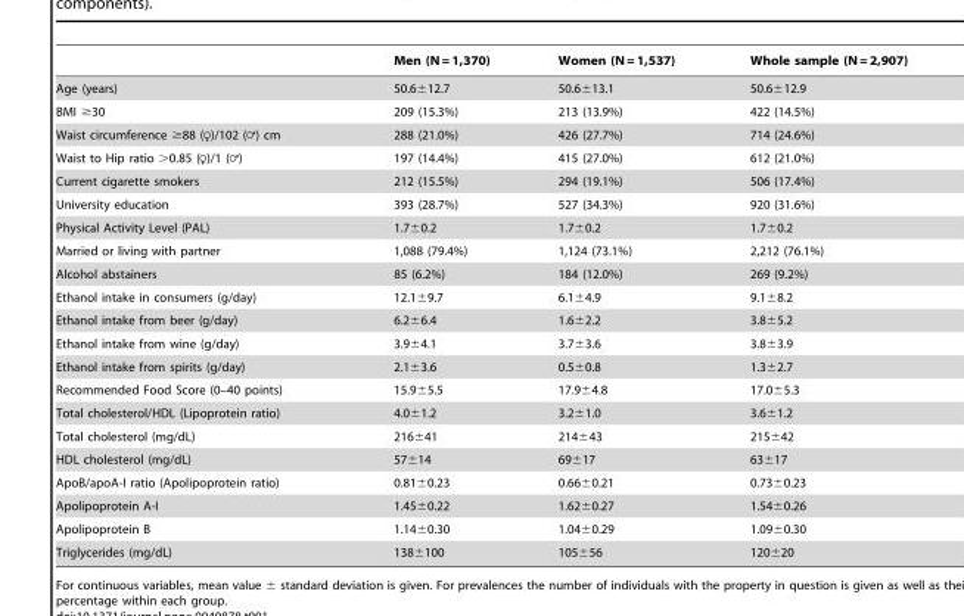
<table><thead><tr><td></td><td>Men (N = 1,370)</td><td>Women (N = 1,537)</td><td>Whole sample (N = 2,907)</td></tr></thead><tbody><tr><td>Age (years)</td><td>50.6±12.7</td><td>50.6±13.1</td><td>50.6±12.9</td></tr><tr><td>BMI ≥30</td><td>209 (15.3%)</td><td>213 (13.9%)</td><td>422 (14.5%)</td></tr><tr><td>Waist circumference $88 (R)/102 (=) cm</td><td>288 (21.0%)</td><td>426 (27.7%)</td><td>714 (24.6%)</td></tr><tr><td>Waist to Hip ratio .0.85 (R)/1 (=)</td><td>197 (14.4%)</td><td>415 (27.0%)</td><td>612 (21.0%)</td></tr><tr><td>Current cigarette smokers</td><td>212 (15.5%)</td><td>294 (19.1%)</td><td>506 (17.4%)</td></tr><tr><td>University education</td><td>393 (28.7%)</td><td>527 (34.3%)</td><td>920 (31.6%)</td></tr><tr><td>Physical Activity Level (PAL)</td><td>1.7±0.2</td><td>1.7±0.2</td><td>1.7±0.2</td></tr><tr><td>Married or living with partner</td><td>1,088 (79.4%)</td><td>1,124 (73.1%)</td><td>2,212 (76.1%)</td></tr><tr><td>Alcohol abstainers</td><td>85 (6.2%)</td><td>184 (12.0%)</td><td>269 (9.2%)</td></tr><tr><td>Ethanol intake in consumers (g/day)</td><td>12.1±9.7</td><td>6.1±4.9</td><td>9.1±8.2</td></tr><tr><td>Ethanol intake from beer (g/day)</td><td>6.2±6.4</td><td>1.6±2.2</td><td>3.8±5.2</td></tr><tr><td>Ethanol intake from wine (g/day)</td><td>3.9±4.1</td><td>3.7±3.6</td><td>3.8±3.9</td></tr><tr><td>Ethanol intake from spirits (g/day)</td><td>2.1±3.6</td><td>0.5±0.8</td><td>1.3±2.7</td></tr><tr><td>Recommended Food Score (0–40 points)</td><td>15.9±5.5</td><td>17.9±4.8</td><td>17.0±5.3</td></tr><tr><td>Total cholesterol/HDL (Lipoprotein ratio)</td><td>4.0±1.2</td><td>3.2±1.0</td><td>3.6±1.2</td></tr><tr><td>Total cholesterol (mg/dL)</td><td>216±41</td><td>214±43</td><td>215±42</td></tr><tr><td>HDL cholesterol (mg/dL)</td><td>57±14</td><td>69±17</td><td>63±17</td></tr><tr><td>ApoB/apoA-I ratio (Apolipoprotein ratio)</td><td>0.81±0.23</td><td>0.66±0.21</td><td>0.73±0.23</td></tr><tr><td>Apolipoprotein A-I</td><td>1.45±0.22</td><td>1.62±0.27</td><td>1.54±0.26</td></tr><tr><td>Apolipoprotein B</td><td>1.14±0.30</td><td>1.04±0.29</td><td>1.09±0.30</td></tr><tr><td>Triglycerides (mg/dL)</td><td>138±100</td><td>105±56</td><td>120±20</td></tr></tbody></table>